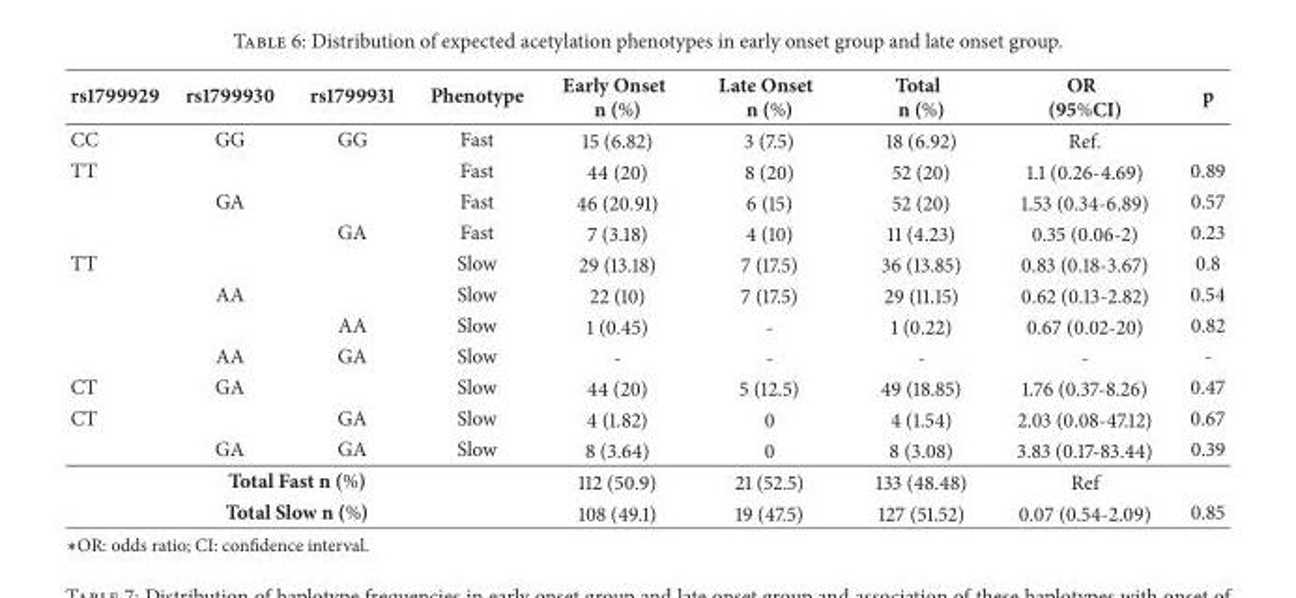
<table><thead><tr><td>rs1799929</td><td>rs1799930</td><td>rs1799931</td><td>Phenotype</td><td>Early Onset n (%)</td><td>Late Onset n (%)</td><td>Total n (%)</td><td>OR (95%CI)</td><td>p</td></tr></thead><tbody><tr><td>CC</td><td>GG</td><td>GG</td><td>Fast</td><td>15 (6.82)</td><td>3 (7.5)</td><td>18 (6.92)</td><td>Ref.</td><td></td></tr><tr><td rowspan="3">TT</td><td></td><td></td><td>Fast</td><td>44 (20)</td><td>8 (20)</td><td>52 (20)</td><td>1.1 (0.26-4.69)</td><td>0.89</td></tr><tr><td>GA</td><td></td><td>Fast</td><td>46 (20.91)</td><td>6 (15)</td><td>52 (20)</td><td>1.53 (0.34-6.89)</td><td>0.57</td></tr><tr><td></td><td>GA</td><td>Fast</td><td>7 (3.18)</td><td>4 (10)</td><td>11 (4.23)</td><td>0.35 (0.06-2)</td><td>0.23</td></tr><tr><td rowspan="4">TT</td><td></td><td></td><td>Slow</td><td>29 (13.18)</td><td>7 (17.5)</td><td>36 (13.85)</td><td>0.83 (0.18-3.67)</td><td>0.8</td></tr><tr><td>AA</td><td></td><td>Slow</td><td>22 (10)</td><td>7 (17.5)</td><td>29 (11.15)</td><td>0.62 (0.13-2.82)</td><td>0.54</td></tr><tr><td></td><td>AA</td><td>Slow</td><td>1 (0.45)</td><td>-</td><td>1 (0.22)</td><td>0.67 (0.02-20)</td><td>0.82</td></tr><tr><td>AA</td><td>GA</td><td>Slow</td><td>-</td><td>-</td><td>-</td><td>-</td><td>-</td></tr><tr><td>CT</td><td>GA</td><td></td><td>Slow</td><td>44 (20)</td><td>5 (12.5)</td><td>49 (18.85)</td><td>1.76 (0.37-8.26)</td><td>0.47</td></tr><tr><td rowspan="2">CT</td><td></td><td>GA</td><td>Slow</td><td>4 (1.82)</td><td>0</td><td>4 (1.54)</td><td>2.03 (0.08-47.12)</td><td>0.67</td></tr><tr><td>GA</td><td>GA</td><td>Slow</td><td>8 (3.64)</td><td>0</td><td>8 (3.08)</td><td>3.83 (0.17-83.44)</td><td>0.39</td></tr><tr><td colspan="4">Total Fast n (%)</td><td>112 (50.9)</td><td>21 (52.5)</td><td>133 (48.48)</td><td>Ref</td><td></td></tr><tr><td colspan="4">Total Slow n (%)</td><td>108 (49.1)</td><td>19 (47.5)</td><td>127 (51.52)</td><td>0.07 (0.54-2.09)</td><td>0.85</td></tr></tbody></table>